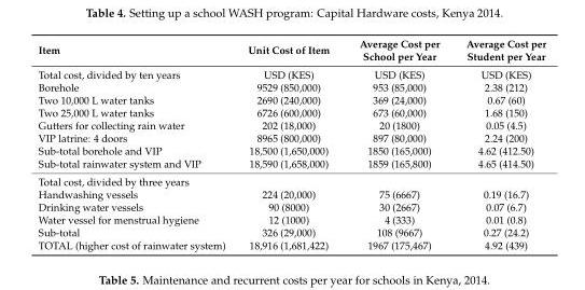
<table><thead><tr><td>Item</td><td>Unit Cost of Item</td><td>Average Cost per School per Year</td><td>Average Cost per Student per Year</td></tr></thead><tbody><tr><td>Total cost, divided by ten years</td><td>USD (KES)</td><td>USD (KES)</td><td>USD (KES)</td></tr><tr><td>Borehole</td><td>9529 (850,000)</td><td>953 (85,000)</td><td>2.38 (212)</td></tr><tr><td>Two 10,000 L water tanks</td><td>2690 (240,000)</td><td>369 (24,000)</td><td>0.67 (60)</td></tr><tr><td>Two 25,000 L water tanks</td><td>6726 (600,000)</td><td>673 (60,000)</td><td>1.68 (150)</td></tr><tr><td>Gutters for collecting rain water</td><td>202 (18,000)</td><td>20 (1800)</td><td>0.05 (4.5)</td></tr><tr><td>VIP latrine: 4 doors</td><td>8965 (800,000)</td><td>897 (80,000)</td><td>2.24 (200)</td></tr><tr><td>Sub-total borehole and VIP</td><td>18,500 (1,650,000)</td><td>1850 (165,000)</td><td>4.62 (412.50)</td></tr><tr><td>Sub-total rainwater system and VIP</td><td>18,590 (1,658,000)</td><td>1859 (165,800)</td><td>4.65 (414.50)</td></tr><tr><td colspan="4">Total cost, divided by three years</td></tr><tr><td>Handwashing vessels</td><td>224 (20,000)</td><td>75 (6667)</td><td>0.19 (16.7)</td></tr><tr><td>Drinking water vessels</td><td>90 (8000)</td><td>30 (2667)</td><td>0.07 (6.7)</td></tr><tr><td>Water vessel for menstrual hygiene</td><td>12 (1000)</td><td>4 (333)</td><td>0.01 (0.8)</td></tr><tr><td>Sub-total</td><td>326 (29,000)</td><td>108 (9667)</td><td>0.27 (24.2)</td></tr><tr><td>TOTAL (higher cost of rainwater system)</td><td>18,916 (1,681,422)</td><td>1967 (175,467)</td><td>4.92 (439)</td></tr></tbody></table>